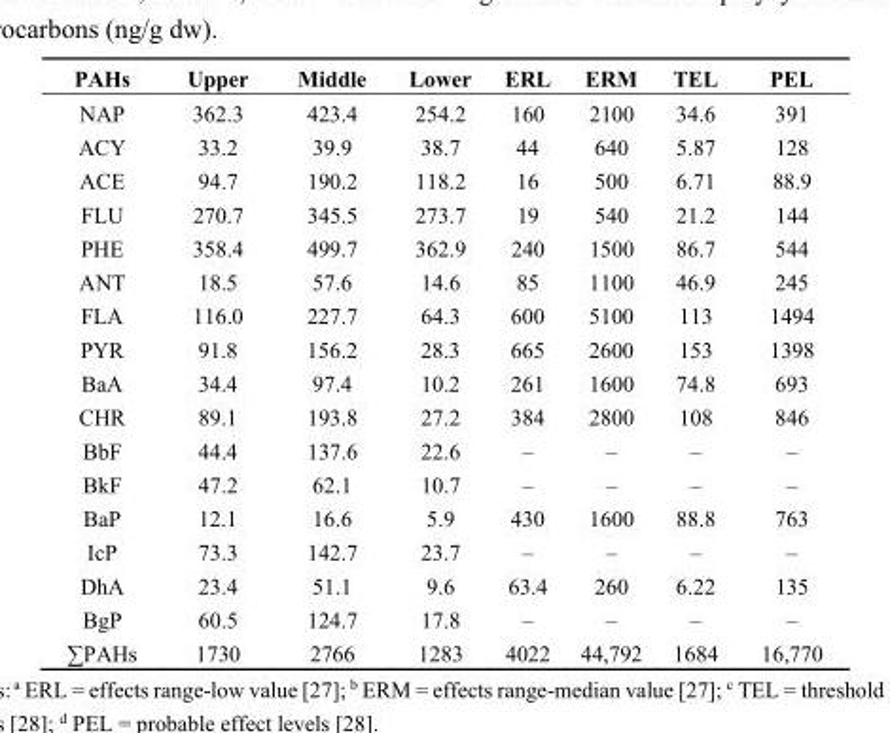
<table><thead><tr><td>PAHs</td><td>Upper</td><td>Middle</td><td>Lower</td><td>ERL</td><td>ERM</td><td>TEL</td><td>PEL</td></tr></thead><tbody><tr><td>NAP</td><td>362.3</td><td>423.4</td><td>254.2</td><td>160</td><td>2100</td><td>34.6</td><td>391</td></tr><tr><td>ACY</td><td>33.2</td><td>39.9</td><td>38.7</td><td>44</td><td>640</td><td>5.87</td><td>128</td></tr><tr><td>ACE</td><td>94.7</td><td>190.2</td><td>118.2</td><td>16</td><td>500</td><td>6.71</td><td>88.9</td></tr><tr><td>FLU</td><td>270.7</td><td>345.5</td><td>273.7</td><td>19</td><td>540</td><td>21.2</td><td>144</td></tr><tr><td>PHE</td><td>358.4</td><td>499.7</td><td>362.9</td><td>240</td><td>1500</td><td>86.7</td><td>544</td></tr><tr><td>ANT</td><td>18.5</td><td>57.6</td><td>14.6</td><td>85</td><td>1100</td><td>46.9</td><td>245</td></tr><tr><td>FLA</td><td>116.0</td><td>227.7</td><td>64.3</td><td>600</td><td>5100</td><td>113</td><td>1494</td></tr><tr><td>PYR</td><td>91.8</td><td>156.2</td><td>28.3</td><td>665</td><td>2600</td><td>153</td><td>1398</td></tr><tr><td>BaA</td><td>34.4</td><td>97.4</td><td>10.2</td><td>261</td><td>1600</td><td>74.8</td><td>693</td></tr><tr><td>CHR</td><td>89.1</td><td>193.8</td><td>27.2</td><td>384</td><td>2800</td><td>108</td><td>846</td></tr><tr><td>BbF</td><td>44.4</td><td>137.6</td><td>22.6</td><td>–</td><td>–</td><td>–</td><td>–</td></tr><tr><td>BkF</td><td>47.2</td><td>62.1</td><td>10.7</td><td>–</td><td>–</td><td>–</td><td>–</td></tr><tr><td>BaP</td><td>12.1</td><td>16.6</td><td>5.9</td><td>430</td><td>1600</td><td>88.8</td><td>763</td></tr><tr><td>IcP</td><td>73.3</td><td>142.7</td><td>23.7</td><td>–</td><td>–</td><td>–</td><td>–</td></tr><tr><td>DhA</td><td>23.4</td><td>51.1</td><td>9.6</td><td>63.4</td><td>260</td><td>6.22</td><td>135</td></tr><tr><td>BgP</td><td>60.5</td><td>124.7</td><td>17.8</td><td>–</td><td>–</td><td>–</td><td>–</td></tr><tr><td>∑PAHs</td><td>1730</td><td>2766</td><td>1283</td><td>4022</td><td>44,792</td><td>1684</td><td>16,770</td></tr></tbody></table>